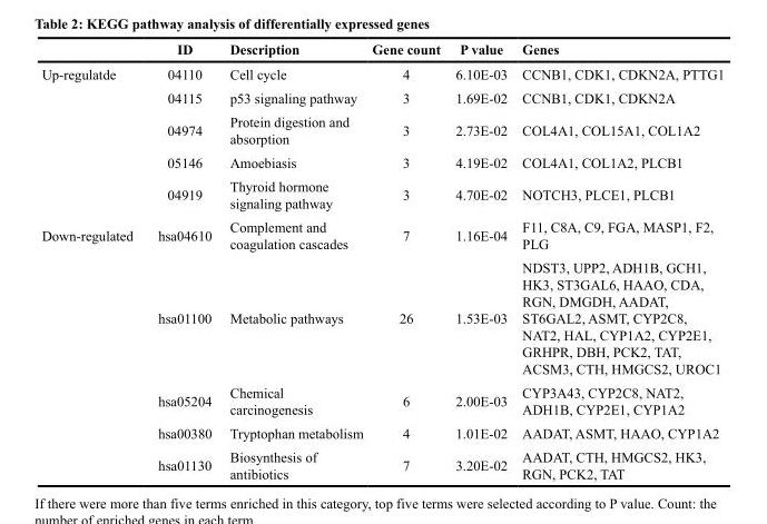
<table><thead><tr><td></td><td>ID</td><td>Description</td><td>Gene count</td><td>P value</td><td>Genes</td></tr></thead><tbody><tr><td rowspan="5">Up-regulatde</td><td>04110</td><td>Cell cycle</td><td>4</td><td>6.10E-03</td><td>CCNB1, CDK1, CDKN2A, PTTG1</td></tr><tr><td>04115</td><td>p53 signaling pathway</td><td>3</td><td>1.69E-02</td><td>CCNB1, CDK1, CDKN2A</td></tr><tr><td>04974</td><td>Protein digestion and absorption</td><td>3</td><td>2.73E-02</td><td>COL4A1, COL15A1, COL1A2</td></tr><tr><td>05146</td><td>Amoebiasis</td><td>3</td><td>4.19E-02</td><td>COL4A1, COL1A2, PLCB1</td></tr><tr><td>04919</td><td>Thyroid hormone signaling pathway</td><td>3</td><td>4.70E-02</td><td>NOTCH3, PLCE1, PLCB1</td></tr><tr><td rowspan="5">Down-regulated</td><td>hsa04610</td><td>Complement and coagulation cascades</td><td>7</td><td>1.16E-04</td><td>F11, C8A, C9, FGA, MASP1, F2, PLG</td></tr><tr><td>hsa01100</td><td>Metabolic pathways</td><td>26</td><td>1.53E-03</td><td>NDST3, UPP2, ADH1B, GCH1, HK3, ST3GAL6, HAAO, CDA, RGN, DMGDH, AADAT, ST6GAL2, ASMT, CYP2C8, NAT2, HAL, CYP1A2, CYP2E1, GRHPR, DBH, PCK2, TAT, ACSM3, CTH, HMGCS2, UROC1</td></tr><tr><td>hsa05204</td><td>Chemical carcinogenesis</td><td>6</td><td>2.00E-03</td><td>CYP3A43, CYP2C8, NAT2, ADH1B, CYP2E1, CYP1A2</td></tr><tr><td>hsa00380</td><td>Tryptophan metabolism</td><td>4</td><td>1.01E-02</td><td>AADAT, ASMT, HAAO, CYP1A2</td></tr><tr><td>hsa01130</td><td>Biosynthesis of antibiotics</td><td>7</td><td>3.20E-02</td><td>AADAT, CTH, HMGCS2, HK3, RGN, PCK2, TAT</td></tr></tbody></table>